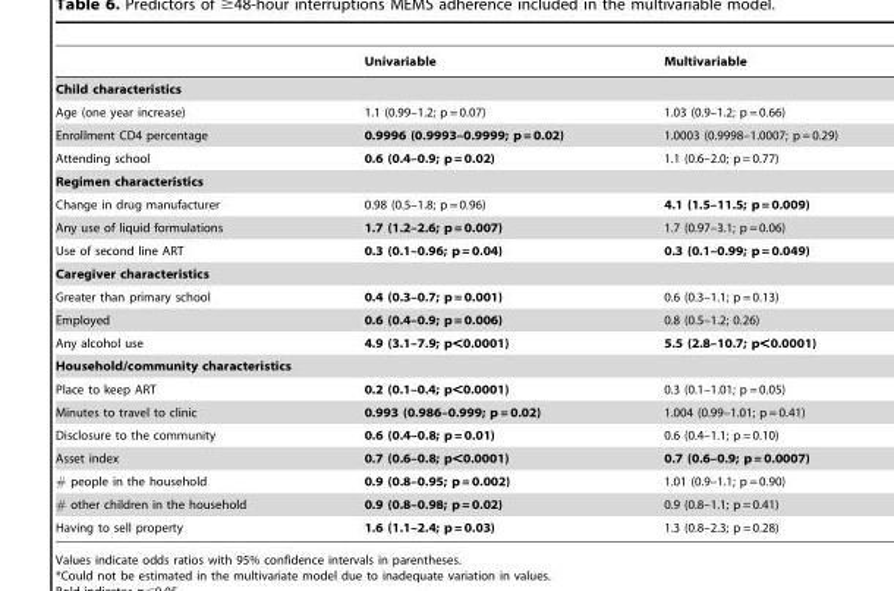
<table><thead><tr><td></td><td>Univariable</td><td>Multivariable</td></tr></thead><tbody><tr><td colspan="3">Child characteristics</td></tr><tr><td>Age (one year increase)</td><td>1.1 (0.99–1.2; p = 0.07)</td><td>1.03 (0.9–1.2; p = 0.66)</td></tr><tr><td>Enrollment CD4 percentage</td><td>0.9996 (0.9993–0.9999; p = 0.02)</td><td>1.0003 (0.9998–1.0007; p = 0.29)</td></tr><tr><td>Attending school</td><td>0.6 (0.4–0.9; p = 0.02)</td><td>1.1 (0.6–2.0; p = 0.77)</td></tr><tr><td colspan="3">Regimen characteristics</td></tr><tr><td>Change in drug manufacturer</td><td>0.98 (0.5–1.8; p = 0.96)</td><td>4.1 (1.5–11.5; p = 0.009)</td></tr><tr><td>Any use of liquid formulations</td><td>1.7 (1.2–2.6; p = 0.007)</td><td>1.7 (0.97–3.1; p = 0.06)</td></tr><tr><td>Use of second line ART</td><td>0.3 (0.1–0.96; p = 0.04)</td><td>0.3 (0.1–0.99; p = 0.049)</td></tr><tr><td colspan="3">Caregiver characteristics</td></tr><tr><td>Greater than primary school</td><td>0.4 (0.3–0.7; p = 0.001)</td><td>0.6 (0.3–1.1; p = 0.13)</td></tr><tr><td>Employed</td><td>0.6 (0.4–0.9; p = 0.006)</td><td>0.8 (0.5–1.2; 0.26)</td></tr><tr><td>Any alcohol use</td><td>4.9 (3.1–7.9; p&lt;0.0001)</td><td>5.5 (2.8–10.7; p&lt;0.0001)</td></tr><tr><td colspan="3">Household/community characteristics</td></tr><tr><td>Place to keep ART</td><td>0.2 (0.1–0.4; p&lt;0.0001)</td><td>0.3 (0.1–1.01; p = 0.05)</td></tr><tr><td>Minutes to travel to clinic</td><td>0.993 (0.986–0.999; p = 0.02)</td><td>1.004 (0.99–1.01; p = 0.41)</td></tr><tr><td>Disclosure to the community</td><td>0.6 (0.4–0.8; p = 0.01)</td><td>0.6 (0.4–1.1; p = 0.10)</td></tr><tr><td>Asset index</td><td>0.7 (0.6–0.8; p&lt;0.0001)</td><td>0.7 (0.6–0.9; p = 0.0007)</td></tr><tr><td># people in the household</td><td>0.9 (0.8–0.95; p = 0.002)</td><td>1.01 (0.9–1.1; p = 0.90)</td></tr><tr><td># other children in the household</td><td>0.9 (0.8–0.98; p = 0.02)</td><td>0.9 (0.8–1.1; p = 0.41)</td></tr><tr><td>Having to sell property</td><td>1.6 (1.1–2.4; p = 0.03)</td><td>1.3 (0.8–2.3; p = 0.28)</td></tr></tbody></table>